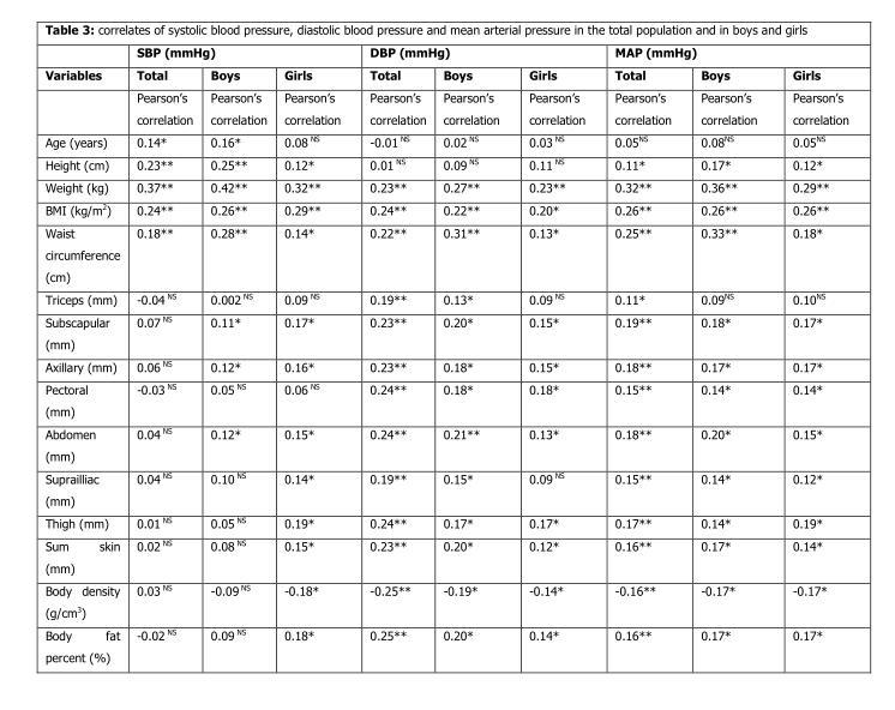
<table><thead><tr><td rowspan="2">Variables</td><td colspan="3">SBP (mmHg)</td><td colspan="3">DBP (mmHg)</td><td colspan="3">MAP (mmHg)</td></tr><tr><td>Total</td><td>Boys</td><td>Girls</td><td>Total</td><td>Boys</td><td>Girls</td><td>Total</td><td>Boys</td><td>Girls</td></tr></thead><tbody><tr><td></td><td>Pearson’s correlation</td><td>Pearson’s correlation</td><td>Pearson’s correlation</td><td>Pearson’s correlation</td><td>Pearson’s correlation</td><td>Pearson’s correlation</td><td>Pearson’s correlation</td><td>Pearson’s correlation</td><td>Pearson’s correlation</td></tr><tr><td>Age (years)</td><td>0.14*</td><td>0.16*</td><td>0.08 <sup>NS</sup></td><td>-0.01 <sup>NS</sup></td><td>0.02 <sup>NS</sup></td><td>0.03 <sup>NS</sup></td><td>0.05<sup>NS</sup></td><td>0.08<sup>NS</sup></td><td>0.05<sup>NS</sup></td></tr><tr><td>Height (cm)</td><td>0.23**</td><td>0.25**</td><td>0.12*</td><td>0.01 <sup>NS</sup></td><td>0.09 <sup>NS</sup></td><td>0.11 <sup>NS</sup></td><td>0.11*</td><td>0.17*</td><td>0.12*</td></tr><tr><td>Weight (kg)</td><td>0.37**</td><td>0.42**</td><td>0.32**</td><td>0.23**</td><td>0.27**</td><td>0.23**</td><td>0.32**</td><td>0.36**</td><td>0.29**</td></tr><tr><td>BMI (kg/m<sup>2</sup>)</td><td>0.24**</td><td>0.26**</td><td>0.29**</td><td>0.24**</td><td>0.22**</td><td>0.20*</td><td>0.26**</td><td>0.26**</td><td>0.26**</td></tr><tr><td>Waist circumference (cm)</td><td>0.18**</td><td>0.28**</td><td>0.14*</td><td>0.22**</td><td>0.31**</td><td>0.13*</td><td>0.25**</td><td>0.33**</td><td>0.18*</td></tr><tr><td>Triceps (mm)</td><td>-0.04 <sup>NS</sup></td><td>0.002 <sup>NS</sup></td><td>0.09 <sup>NS</sup></td><td>0.19**</td><td>0.13*</td><td>0.09 <sup>NS</sup></td><td>0.11*</td><td>0.09<sup>NS</sup></td><td>0.10<sup>NS</sup></td></tr><tr><td>Subscapular (mm)</td><td>0.07 <sup>NS</sup></td><td>0.11*</td><td>0.17*</td><td>0.23**</td><td>0.20*</td><td>0.15*</td><td>0.19**</td><td>0.18*</td><td>0.17*</td></tr><tr><td>Axillary (mm)</td><td>0.06 <sup>NS</sup></td><td>0.12*</td><td>0.16*</td><td>0.23**</td><td>0.18*</td><td>0.15*</td><td>0.18**</td><td>0.17*</td><td>0.17*</td></tr><tr><td>Pectoral (mm)</td><td>-0.03 <sup>NS</sup></td><td>0.05 <sup>NS</sup></td><td>0.06 <sup>NS</sup></td><td>0.24**</td><td>0.18*</td><td>0.18*</td><td>0.15**</td><td>0.14*</td><td>0.14*</td></tr><tr><td>Abdomen (mm)</td><td>0.04 <sup>NS</sup></td><td>0.12*</td><td>0.15*</td><td>0.24**</td><td>0.21**</td><td>0.13*</td><td>0.18**</td><td>0.20*</td><td>0.15*</td></tr><tr><td>Suprailliac (mm)</td><td>0.04 <sup>NS</sup></td><td>0.10 <sup>NS</sup></td><td>0.14*</td><td>0.19**</td><td>0.15*</td><td>0.09 <sup>NS</sup></td><td>0.15**</td><td>0.14*</td><td>0.12*</td></tr><tr><td>Thigh (mm)</td><td>0.01 <sup>NS</sup></td><td>0.05 <sup>NS</sup></td><td>0.19*</td><td>0.24**</td><td>0.17*</td><td>0.17*</td><td>0.17**</td><td>0.14*</td><td>0.19*</td></tr><tr><td>Sum skin (mm)</td><td>0.02 <sup>NS</sup></td><td>0.08 <sup>NS</sup></td><td>0.15*</td><td>0.23**</td><td>0.20*</td><td>0.12*</td><td>0.16**</td><td>0.17*</td><td>0.14*</td></tr><tr><td>Body density (g/cm<sup>3</sup>)</td><td>0.03 <sup>NS</sup></td><td>-0.09 <sup>NS</sup></td><td>-0.18*</td><td>-0.25**</td><td>-0.19*</td><td>-0.14*</td><td>-0.16**</td><td>-0.17*</td><td>-0.17*</td></tr><tr><td>Body fat percent (%)</td><td>-0.02 <sup>NS</sup></td><td>0.09 <sup>NS</sup></td><td>0.18*</td><td>0.25**</td><td>0.20*</td><td>0.14*</td><td>0.16**</td><td>0.17*</td><td>0.17*</td></tr></tbody></table>